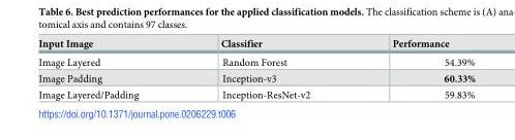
<table><thead><tr><td>Input Image</td><td>Classifier</td><td>Performance</td></tr></thead><tbody><tr><td>Image Layered</td><td>Random Forest</td><td>54.39%</td></tr><tr><td>Image Padding</td><td>Inception-v3</td><td>60.33%</td></tr><tr><td>Image Layered/Padding</td><td>Inception-ResNet-v2</td><td>59.83%</td></tr></tbody></table>